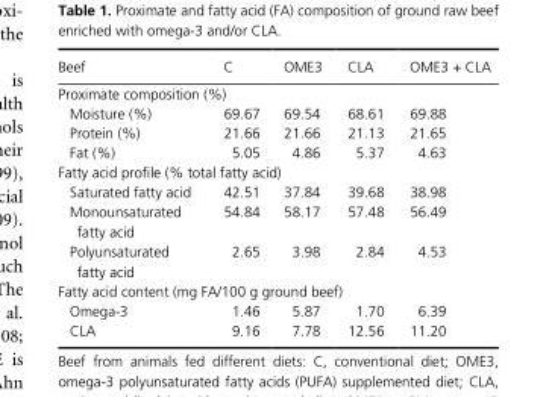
<table><thead><tr><td>Beef</td><td>C</td><td>OME3</td><td>CLA</td><td>OME3 + CLA</td></tr></thead><tbody><tr><td colspan="5">Proximate composition (%)</td></tr><tr><td>Moisture (%)</td><td>69.67</td><td>69.54</td><td>68.61</td><td>69.88</td></tr><tr><td>Protein (%)</td><td>21.66</td><td>21.66</td><td>21.13</td><td>21.65</td></tr><tr><td>Fat (%)</td><td>5.05</td><td>4.86</td><td>5.37</td><td>4.63</td></tr><tr><td colspan="5">Fatty acid profile (% total fatty acid)</td></tr><tr><td>Saturated fatty acid</td><td>42.51</td><td>37.84</td><td>39.68</td><td>38.98</td></tr><tr><td>Monounsaturated fatty acid</td><td>54.84</td><td>58.17</td><td>57.48</td><td>56.49</td></tr><tr><td>Polyunsaturated fatty acid</td><td>2.65</td><td>3.98</td><td>2.84</td><td>4.53</td></tr><tr><td colspan="5">Fatty acid content (mg FA/100 g ground beef)</td></tr><tr><td>Omega- 3</td><td>1.46</td><td>5.87</td><td>1.70</td><td>6.39</td></tr><tr><td>CLA</td><td>9.16</td><td>7.78</td><td>12.56</td><td>11.20</td></tr></tbody></table>